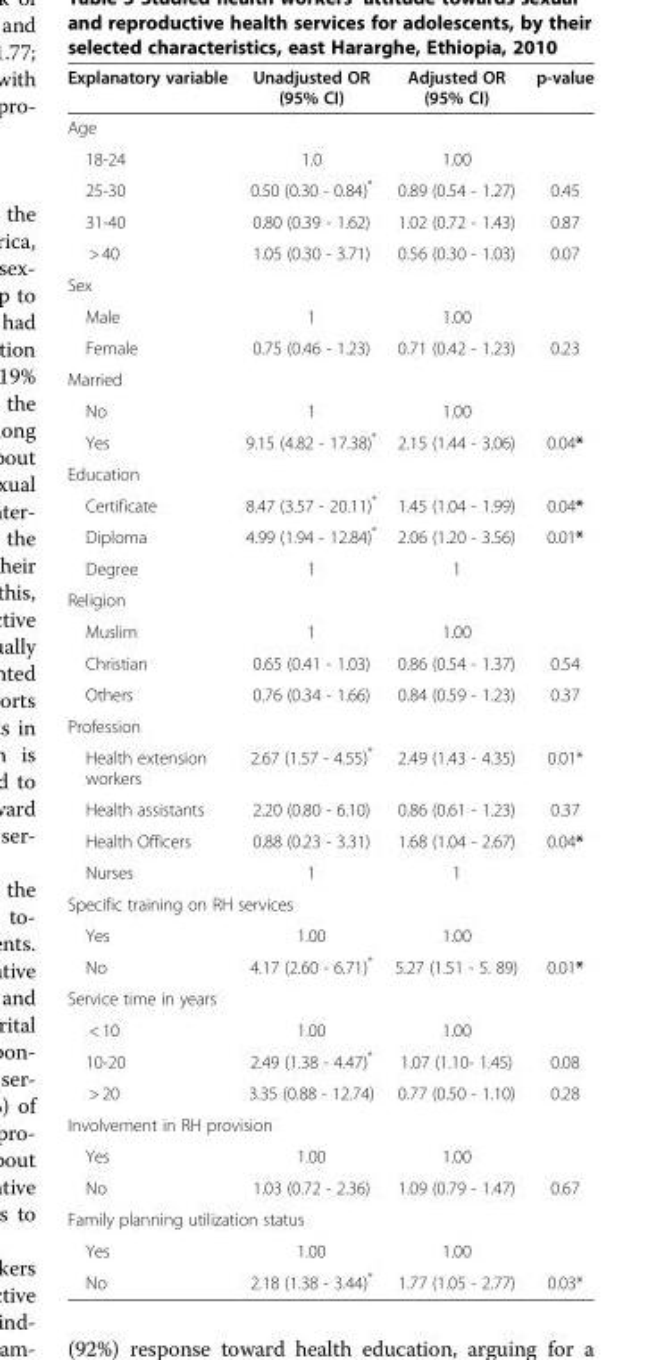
<table><thead><tr><td>Explanatory variable</td><td>Unadjusted OR (95% CI)</td><td>Adjusted OR (95% CI)</td><td>p-value</td></tr></thead><tbody><tr><td colspan="4">Age</td></tr><tr><td>18-24</td><td>1.0</td><td>1.00</td><td></td></tr><tr><td>25-30</td><td>0.50 (0.30 - 0.84)*</td><td>0.89 (0.54 - 1.27)</td><td>0.45</td></tr><tr><td>31-40</td><td>0.80 (0.39 - 1.62)</td><td>1.02 (0.72 - 1.43)</td><td>0.87</td></tr><tr><td>&gt; 40</td><td>1.05 (0.30 - 3.71)</td><td>0.56 (0.30 - 1.03)</td><td>0.07</td></tr><tr><td colspan="4">Sex</td></tr><tr><td>Male</td><td>1</td><td>1.00</td><td></td></tr><tr><td>Female</td><td>0.75 (0.46 - 1.23)</td><td>0.71 (0.42 - 1.23)</td><td>0.23</td></tr><tr><td colspan="4">Married</td></tr><tr><td>No</td><td>1</td><td>1.00</td><td></td></tr><tr><td>Yes</td><td>9.15 (4.82 - 17.38)*</td><td>2.15 (1.44 - 3.06)</td><td>0.04*</td></tr><tr><td colspan="4">Education</td></tr><tr><td>Certificate</td><td>8.47 (3.57 - 20.11)*</td><td>1.45 (1.04 - 1.99)</td><td>0.04*</td></tr><tr><td>Diploma</td><td>4.99 (1.94 - 12.84)*</td><td>2.06 (1.20 - 3.56)</td><td>0.01*</td></tr><tr><td>Degree</td><td>1</td><td>1</td><td></td></tr><tr><td colspan="4">Religion</td></tr><tr><td>Muslim</td><td>1</td><td>1.00</td><td></td></tr><tr><td>Christian</td><td>0.65 (0.41 - 1.03)</td><td>0.86 (0.54 - 1.37)</td><td>0.54</td></tr><tr><td>Others</td><td>0.76 (0.34 - 1.66)</td><td>0.84 (0.59 - 1.23)</td><td>0.37</td></tr><tr><td colspan="4">Profession</td></tr><tr><td>Health extension workers</td><td>2.67 (1.57 - 4.55)*</td><td>2.49 (1.43 - 4.35)</td><td>0.01*</td></tr><tr><td>Health assistants</td><td>2.20 (0.80 - 6.10)</td><td>0.86 (0.61 - 1.23)</td><td>0.37</td></tr><tr><td>Health Officers</td><td>0.88 (0.23 - 3.31)</td><td>1.68 (1.04 - 2.67)</td><td>0.04*</td></tr><tr><td>Nurses</td><td>1</td><td>1</td><td></td></tr><tr><td colspan="4">Specific training on RH services</td></tr><tr><td>Yes</td><td>1.00</td><td>1.00</td><td></td></tr><tr><td>No</td><td>4.17 (2.60 - 6.71)*</td><td>5.27 (1.51 - 5. 89)</td><td>0.01*</td></tr><tr><td colspan="4">Service time in years</td></tr><tr><td>&lt; 10</td><td>1.00</td><td>1.00</td><td></td></tr><tr><td>10-20</td><td>2.49 (1.38 - 4.47)*</td><td>1.07 (1.10- 1.45)</td><td>0.08</td></tr><tr><td>&gt; 20</td><td>3.35 (0.88 - 12.74)</td><td>0.77 (0.50 - 1.10)</td><td>0.28</td></tr><tr><td colspan="4">Involvement in RH provision</td></tr><tr><td>Yes</td><td>1.00</td><td>1.00</td><td></td></tr><tr><td>No</td><td>1.03 (0.72 - 2.36)</td><td>1.09 (0.79 - 1.47)</td><td>0.67</td></tr><tr><td colspan="4">Family planning utilization status</td></tr><tr><td>Yes</td><td>1.00</td><td>1.00</td><td></td></tr><tr><td>No</td><td>2.18 (1.38 - 3.44)*</td><td>1.77 (1.05 - 2.77)</td><td>0.03*</td></tr></tbody></table>